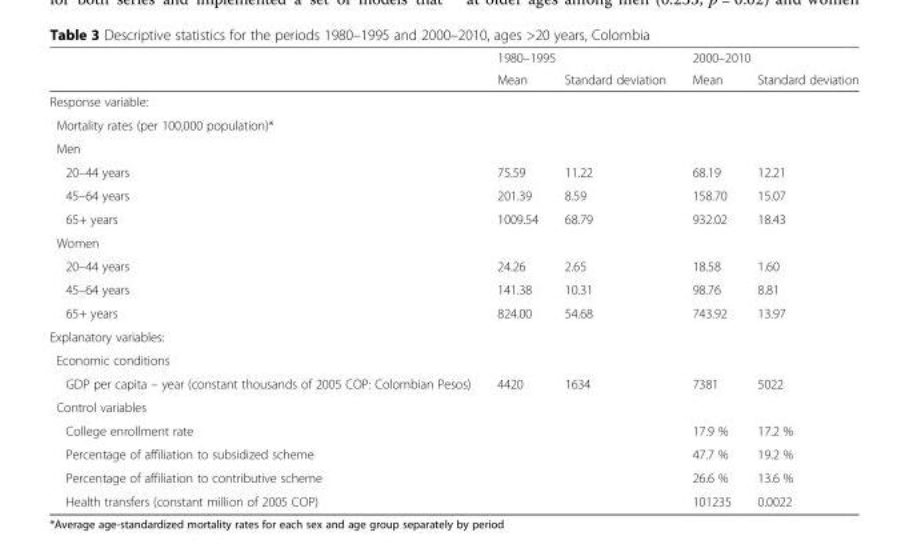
<table><thead><tr><td rowspan="2"></td><td colspan="2">1980–1995</td><td colspan="2">2000–2010</td></tr><tr><td>Mean</td><td>Standard deviation</td><td>Mean</td><td>Standard deviation</td></tr></thead><tbody><tr><td colspan="5">Response variable:</td></tr><tr><td colspan="5">Mortality rates (per 100,000 population)*</td></tr><tr><td colspan="5">Men</td></tr><tr><td>20–44 years</td><td>75.59</td><td>11.22</td><td>68.19</td><td>12.21</td></tr><tr><td>45–64 years</td><td>201.39</td><td>8.59</td><td>158.70</td><td>15.07</td></tr><tr><td>65+ years</td><td>1009.54</td><td>68.79</td><td>932.02</td><td>18.43</td></tr><tr><td colspan="5">Women</td></tr><tr><td>20–44 years</td><td>24.26</td><td>2.65</td><td>18.58</td><td>1.60</td></tr><tr><td>45–64 years</td><td>141.38</td><td>10.31</td><td>98.76</td><td>8.81</td></tr><tr><td>65+ years</td><td>824.00</td><td>54.68</td><td>743.92</td><td>13.97</td></tr><tr><td colspan="5">Explanatory variables:</td></tr><tr><td colspan="5">Economic conditions</td></tr><tr><td>GDP per capita – year (constant thousands of 2005 COP: Colombian Pesos)</td><td>4420</td><td>1634</td><td>7381</td><td>5022</td></tr><tr><td colspan="5">Control variables</td></tr><tr><td>College enrollment rate</td><td></td><td></td><td>17.9 %</td><td>17.2 %</td></tr><tr><td>Percentage of affiliation to subsidized scheme</td><td></td><td></td><td>47.7 %</td><td>19.2 %</td></tr><tr><td>Percentage of affiliation to contributive scheme</td><td></td><td></td><td>26.6 %</td><td>13.6 %</td></tr><tr><td>Health transfers (constant million of 2005 COP)</td><td></td><td></td><td>101235</td><td>0.0022</td></tr></tbody></table>